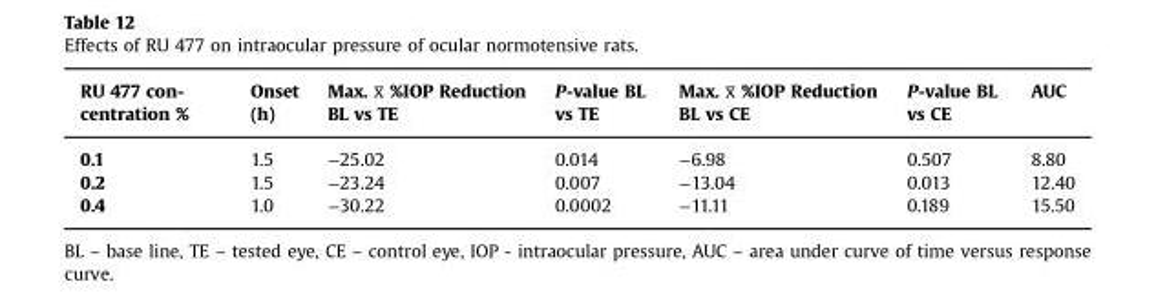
<table><thead><tr><td>RU 477 con- centration %</td><td>Onset (h)</td><td>Max. x̅ %IOP Reduction BL vs TE</td><td>P-value BL vs TE</td><td>Max. x̅ %IOP Reduction BL vs CE</td><td>P-value BL vs CE</td><td>AUC</td></tr></thead><tbody><tr><td>0.1</td><td>1.5</td><td>−25.02</td><td>0.014</td><td>−6.98</td><td>0.507</td><td>8.80</td></tr><tr><td>0.2</td><td>1.5</td><td>−23.24</td><td>0.007</td><td>−13.04</td><td>0.013</td><td>12.40</td></tr><tr><td>0.4</td><td>1.0</td><td>−30.22</td><td>0.0002</td><td>−11.11</td><td>0.189</td><td>15.50</td></tr></tbody></table>